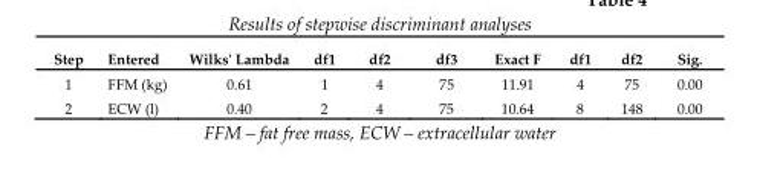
<table><thead><tr><td>Step</td><td>Entered</td><td>Wilks&#x27; Lambda</td><td>df1</td><td>df2</td><td>df3</td><td>Exact F</td><td>df1</td><td>df2</td><td>Sig.</td></tr></thead><tbody><tr><td>1</td><td>FFM (kg)</td><td>0.61</td><td>1</td><td>4</td><td>75</td><td>11.91</td><td>4</td><td>75</td><td>0.00</td></tr><tr><td>2</td><td>ECW (l)</td><td>0.40</td><td>2</td><td>4</td><td>75</td><td>10.64</td><td>8</td><td>148</td><td>0.00</td></tr></tbody></table>